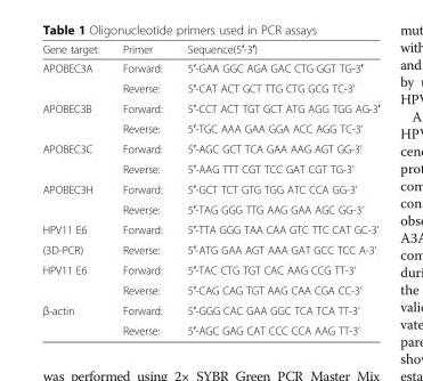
<table><thead><tr><td>Gene target</td><td>Primer</td><td>Sequence(5′-3′)</td></tr></thead><tbody><tr><td rowspan="2">APOBEC3A</td><td>Forward:</td><td>5′-GAA GGC AGA GAC CTG GGT TG-3′</td></tr><tr><td>Reverse:</td><td>5′-CAT ACT GCT TTG CTG GCG TC-3’</td></tr><tr><td rowspan="2">APOBEC3B</td><td>Forward:</td><td>5′-CCT ACT TGT GCT ATG AGG TGG AG-3′</td></tr><tr><td>Reverse:</td><td>5′-TGC AAA GAA GGA ACC AGG TC-3’</td></tr><tr><td rowspan="2">APOBEC3C</td><td>Forward:</td><td>5′-AGC GCT TCA GAA AAG AGT GG-3’</td></tr><tr><td>Reverse:</td><td>5′-AAG TTT CGT TCC GAT CGT TG-3’</td></tr><tr><td rowspan="2">APOBEC3H</td><td>Forward:</td><td>5′-GCT TCT GTG TGG ATC CCA GG-3’</td></tr><tr><td>Reverse:</td><td>5′-TAG GGG TTG AAG GAA AGC GG-3’</td></tr><tr><td>HPV11 E6</td><td>Forward:</td><td>5′-TTA GGG TAA CAA GTC TTC CAT GC-3’</td></tr><tr><td>(3D-PCR)</td><td>Reverse:</td><td>5′-ATG GAA AGT AAA GAT GCC TCC A-3’</td></tr><tr><td rowspan="2">HPV11 E6</td><td>Forward:</td><td>5′-TAC CTG TGT CAC AAG CCG TT-3’</td></tr><tr><td>Reverse:</td><td>5′-CAG CAG TGT AAG CAA CGA CC-3’</td></tr><tr><td rowspan="2">β-actin</td><td>Forward:</td><td>5′-GGG CAC GAA GGC TCA TCA TT-3’</td></tr><tr><td>Reverse:</td><td>5′-AGC GAG CAT CCC CCA AAG TT-3’</td></tr></tbody></table>